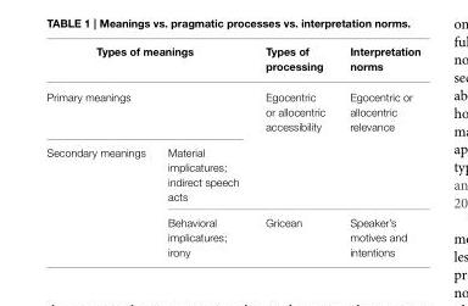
<table><thead><tr><td rowspan="2" colspan="2">Types of meanings Primary meanings</td><td rowspan="3">Types of processing Egocentric or allocentric accessibility</td><td rowspan="3">Interpretation norms Egocentric or allocentric relevance</td></tr><tr></tr><tr><td>Secondary meanings</td><td>Material implicatures; indirect speech acts</td></tr></thead><tbody><tr><td></td><td>Behavioral implicatures; irony</td><td>Gricean</td><td>Speaker’s motives and intentions</td></tr></tbody></table>